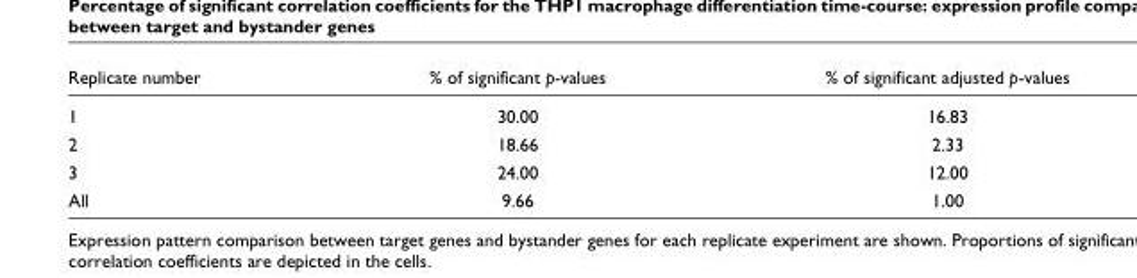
<table><thead><tr><td>Replicate number</td><td>% of significant p-values</td><td>% of significant adjusted p-values</td></tr></thead><tbody><tr><td>1</td><td>30.00</td><td>16.83</td></tr><tr><td>2</td><td>18.66</td><td>2.33</td></tr><tr><td>3</td><td>24.00</td><td>12.00</td></tr><tr><td>All</td><td>9.66</td><td>1.00</td></tr></tbody></table>